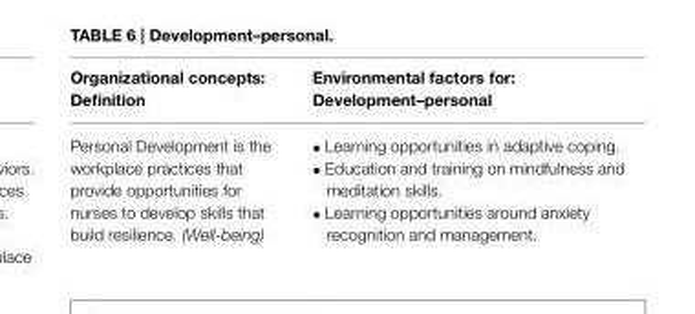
<table><thead><tr><td>Organizational concepts: Definition</td><td>Environmental factors for: Development–personal</td></tr></thead><tbody><tr><td>Personal Development is the workplace practices that provide opportunities for nurses to develop skills that build resilience. (Well-being)</td><td>• Learning opportunities in adaptive coping. • Education and training on mindfulness and meditation skills. • Learning opportunities around anxiety recognition and management.</td></tr></tbody></table>